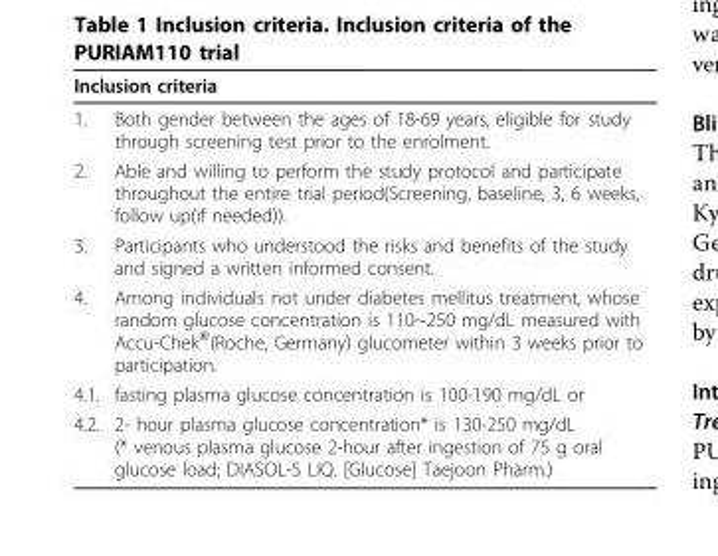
<table><thead><tr><td colspan="2">Inclusion criteria</td></tr><tr><td>1.</td><td>Both gender between the ages of 18-69 years, eligible for study through screening test prior to the enrolment.</td></tr></thead><tbody><tr><td>2.</td><td>Able and willing to perform the study protocol and participate throughout the entire trial period(Screening, baseline, 3, 6 weeks, follow up(if needed)).</td></tr><tr><td>3.</td><td>Participants who understood the risks and benefits of the study and signed a written informed consent.</td></tr><tr><td>4.</td><td>Among individuals not under diabetes mellitus treatment, whose random glucose concentration is 110~250 mg/dL measured with Accu-Chek<sup>®</sup>(Roche, Germany) glucometer within 3 weeks prior to participation.</td></tr><tr><td>4.1.</td><td>fasting plasma glucose concentration is 100-190 mg/dL or</td></tr><tr><td>4.2.</td><td>2- hour plasma glucose concentration* is 130-250 mg/dL (* venous plasma glucose 2-hour after ingestion of 75 g oral glucose load; DIASOL-S LIQ. [Glucose] Taejoon Pharm.)</td></tr></tbody></table>